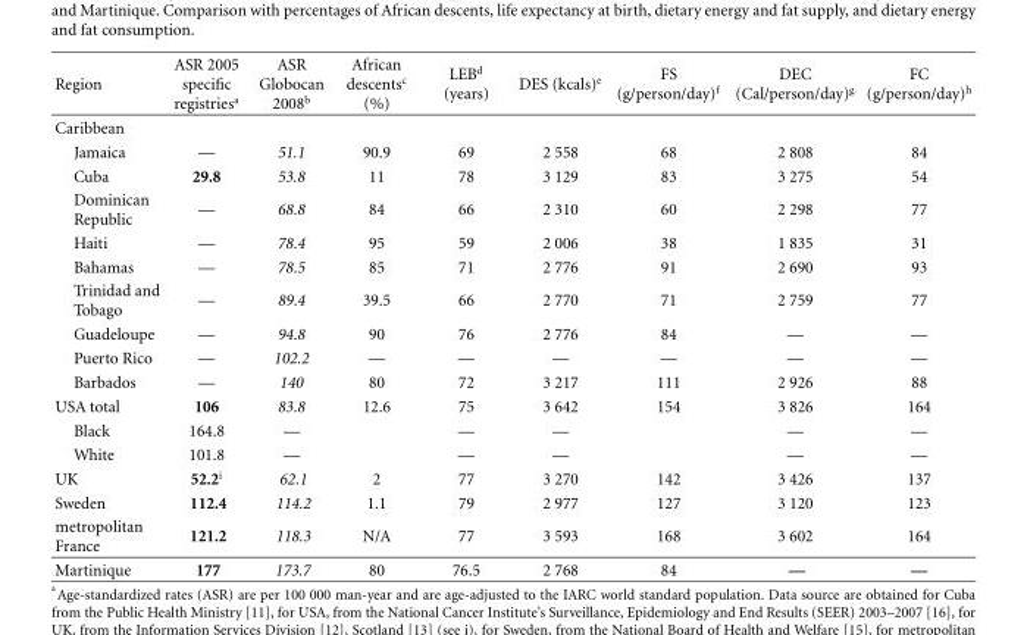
<table><thead><tr><td>Region</td><td>ASR 2005 specific registries<sup>a</sup></td><td>ASR Globocan 2008<sup>b</sup></td><td>African descents<sup>c</sup> (%)</td><td>LEB<sup>d</sup> (years)</td><td>DES (kcals)<sup>e</sup></td><td>FS (g/person/day)<sup>f</sup></td><td>DEC (Cal/person/day)<sup>g</sup></td><td>FC (g/person/day)<sup>h</sup></td></tr></thead><tbody><tr><td colspan="9">Caribbean</td></tr><tr><td>Jamaica</td><td>—</td><td>51.1</td><td>90.9</td><td>69</td><td>2 558</td><td>68</td><td>2 808</td><td>84</td></tr><tr><td>Cuba</td><td>29.8</td><td>53.8</td><td>11</td><td>78</td><td>3 129</td><td>83</td><td>3 275</td><td>54</td></tr><tr><td>Dominican Republic</td><td>—</td><td>68.8</td><td>84</td><td>66</td><td>2 310</td><td>60</td><td>2 298</td><td>77</td></tr><tr><td>Haiti</td><td>—</td><td>78.4</td><td>95</td><td>59</td><td>2 006</td><td>38</td><td>1 835</td><td>31</td></tr><tr><td>Bahamas</td><td>—</td><td>78.5</td><td>85</td><td>71</td><td>2 776</td><td>91</td><td>2 690</td><td>93</td></tr><tr><td>Trinidad and Tobago</td><td>—</td><td>89.4</td><td>39.5</td><td>66</td><td>2 770</td><td>71</td><td>2 759</td><td>77</td></tr><tr><td>Guadeloupe</td><td>—</td><td>94.8</td><td>90</td><td>76</td><td>2 776</td><td>84</td><td>—</td><td>—</td></tr><tr><td>Puerto Rico</td><td>—</td><td>102.2</td><td>—</td><td>—</td><td>—</td><td>—</td><td>—</td><td>—</td></tr><tr><td>Barbados</td><td>—</td><td>140</td><td>80</td><td>72</td><td>3 217</td><td>111</td><td>2 926</td><td>88</td></tr><tr><td>USA total</td><td>106</td><td>83.8</td><td>12.6</td><td>75</td><td>3 642</td><td>154</td><td>3 826</td><td>164</td></tr><tr><td>Black</td><td>164.8</td><td>—</td><td></td><td>—</td><td>—</td><td></td><td>—</td><td>—</td></tr><tr><td>White</td><td>101.8</td><td>—</td><td></td><td>—</td><td>—</td><td></td><td>—</td><td>—</td></tr><tr><td>UK</td><td>52.2<sup>i</sup></td><td>62.1</td><td>2</td><td>77</td><td>3 270</td><td>142</td><td>3 426</td><td>137</td></tr><tr><td>Sweden</td><td>112.4</td><td>114.2</td><td>1.1</td><td>79</td><td>2 977</td><td>127</td><td>3 120</td><td>123</td></tr><tr><td>metropolitan France</td><td>121.2</td><td>118.3</td><td>N/A</td><td>77</td><td>3 593</td><td>168</td><td>3 602</td><td>164</td></tr><tr><td>Martinique</td><td>177</td><td>173.7</td><td>80</td><td>76.5</td><td>2 768</td><td>84</td><td>—</td><td>—</td></tr></tbody></table>